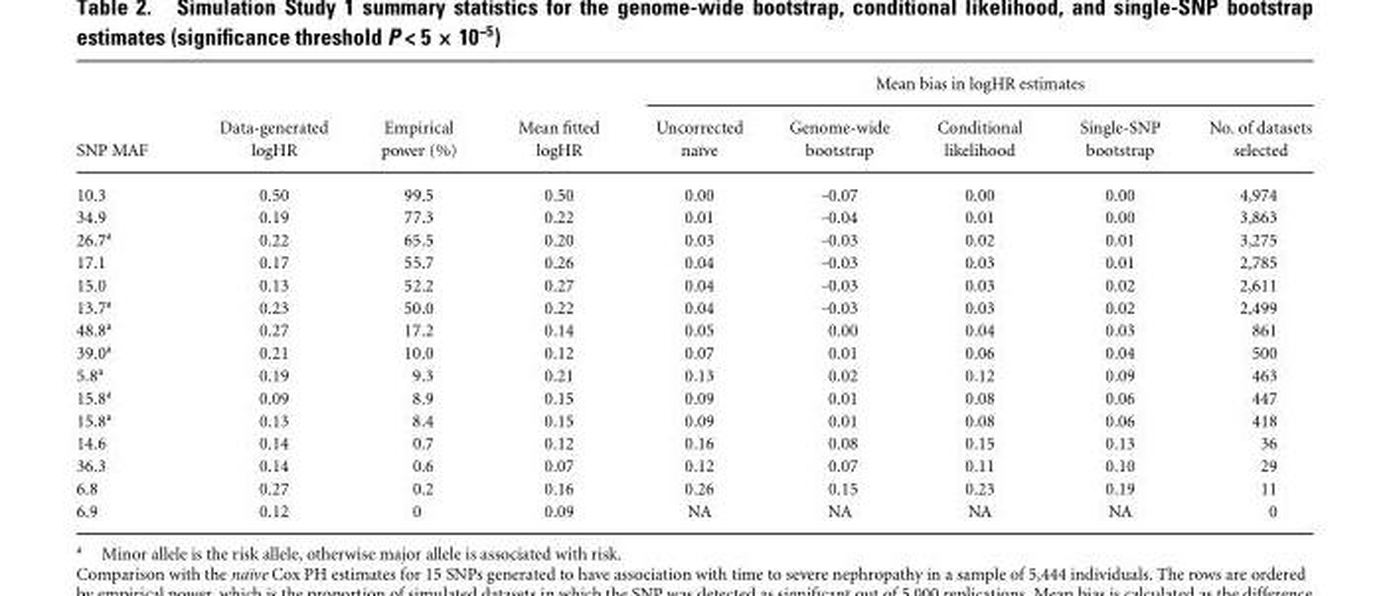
<table><thead><tr><td rowspan="2">SNP MAF</td><td rowspan="2">Data-generated logHR</td><td rowspan="2">Empirical power (%)</td><td rowspan="2">Mean fitted logHR</td><td colspan="5">Mean bias in logHR estimates</td></tr><tr><td>Uncorrected na¨ıve</td><td>Genome-wide bootstrap</td><td>Conditional likelihood</td><td>Single-SNP bootstrap</td><td>No. of datasets selected</td></tr></thead><tbody><tr><td>10.3</td><td>0.50</td><td>99.5</td><td>0.50</td><td>0.00</td><td>–0.07</td><td>0.00</td><td>0.00</td><td>4,974</td></tr><tr><td>34.9</td><td>0.19</td><td>77.3</td><td>0.22</td><td>0.01</td><td>–0.04</td><td>0.01</td><td>0.00</td><td>3,863</td></tr><tr><td>26.7<sup>a</sup></td><td>0.22</td><td>65.5</td><td>0.20</td><td>0.03</td><td>–0.03</td><td>0.02</td><td>0.01</td><td>3,275</td></tr><tr><td>17.1</td><td>0.17</td><td>55.7</td><td>0.26</td><td>0.04</td><td>–0.03</td><td>0.03</td><td>0.01</td><td>2,785</td></tr><tr><td>15.0</td><td>0.13</td><td>52.2</td><td>0.27</td><td>0.04</td><td>–0.03</td><td>0.03</td><td>0.02</td><td>2,611</td></tr><tr><td>13.7<sup>a</sup></td><td>0.23</td><td>50.0</td><td>0.22</td><td>0.04</td><td>–0.03</td><td>0.03</td><td>0.02</td><td>2,499</td></tr><tr><td>48.8<sup>a</sup></td><td>0.27</td><td>17.2</td><td>0.14</td><td>0.05</td><td>0.00</td><td>0.04</td><td>0.03</td><td>861</td></tr><tr><td>39.0<sup>a</sup></td><td>0.21</td><td>10.0</td><td>0.12</td><td>0.07</td><td>0.01</td><td>0.06</td><td>0.04</td><td>500</td></tr><tr><td>5.8<sup>a</sup></td><td>0.19</td><td>9.3</td><td>0.21</td><td>0.13</td><td>0.02</td><td>0.12</td><td>0.09</td><td>463</td></tr><tr><td>15.8<sup>a</sup></td><td>0.09</td><td>8.9</td><td>0.15</td><td>0.09</td><td>0.01</td><td>0.08</td><td>0.06</td><td>447</td></tr><tr><td>15.8<sup>a</sup></td><td>0.13</td><td>8.4</td><td>0.15</td><td>0.09</td><td>0.01</td><td>0.08</td><td>0.06</td><td>418</td></tr><tr><td>14.6</td><td>0.14</td><td>0.7</td><td>0.12</td><td>0.16</td><td>0.08</td><td>0.15</td><td>0.13</td><td>36</td></tr><tr><td>36.3</td><td>0.14</td><td>0.6</td><td>0.07</td><td>0.12</td><td>0.07</td><td>0.11</td><td>0.10</td><td>29</td></tr><tr><td>6.8</td><td>0.27</td><td>0.2</td><td>0.16</td><td>0.26</td><td>0.15</td><td>0.23</td><td>0.19</td><td>11</td></tr><tr><td>6.9</td><td>0.12</td><td>0</td><td>0.09</td><td>NA</td><td>NA</td><td>NA</td><td>NA</td><td>0</td></tr></tbody></table>